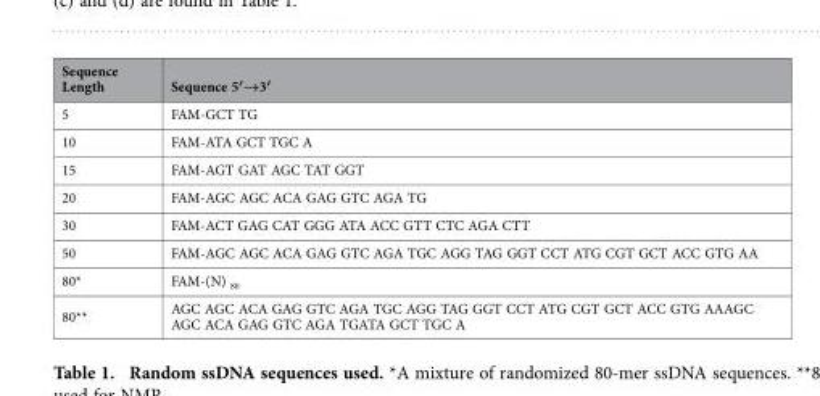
<table><thead><tr><td>Sequence Length</td><td>Sequence 5′→3′</td></tr></thead><tbody><tr><td>5</td><td>FAM-GCT TG</td></tr><tr><td>10</td><td>FAM-ATA GCT TGC A</td></tr><tr><td>15</td><td>FAM-AGT GAT AGC TAT GGT</td></tr><tr><td>20</td><td>FAM-AGC AGC ACA GAG GTC AGA TG</td></tr><tr><td>30</td><td>FAM-ACT GAG CAT GGG ATA ACC GTT CTC AGA CTT</td></tr><tr><td>50</td><td>FAM-AGC AGC ACA GAG GTC AGA TGC AGG TAG GGT CCT ATG CGT GCT ACC GTG AA</td></tr><tr><td>80*</td><td>FAM-(N) <sub>80</sub></td></tr><tr><td>80**</td><td>AGC AGC ACA GAG GTC AGA TGC AGG TAG GGT CCT ATG CGT GCT ACC GTG AAAGC AGC ACA GAG GTC AGA TGATA GCT TGC A</td></tr></tbody></table>